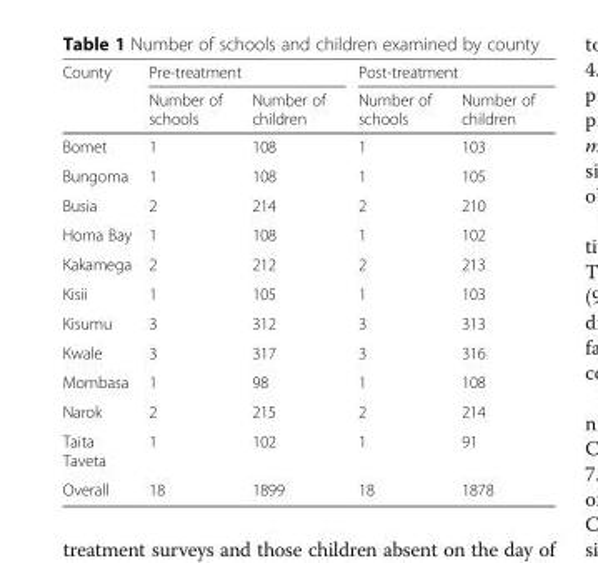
<table><thead><tr><td rowspan="2">County</td><td colspan="2">Pre-treatment</td><td colspan="2">Post-treatment</td></tr><tr><td>Number of schools</td><td>Number of children</td><td>Number of schools</td><td>Number of children</td></tr></thead><tbody><tr><td>Bomet</td><td>1</td><td>108</td><td>1</td><td>103</td></tr><tr><td>Bungoma</td><td>1</td><td>108</td><td>1</td><td>105</td></tr><tr><td>Busia</td><td>2</td><td>214</td><td>2</td><td>210</td></tr><tr><td>Homa Bay</td><td>1</td><td>108</td><td>1</td><td>102</td></tr><tr><td>Kakamega</td><td>2</td><td>212</td><td>2</td><td>213</td></tr><tr><td>Kisii</td><td>1</td><td>105</td><td>1</td><td>103</td></tr><tr><td>Kisumu</td><td>3</td><td>312</td><td>3</td><td>313</td></tr><tr><td>Kwale</td><td>3</td><td>317</td><td>3</td><td>316</td></tr><tr><td>Mombasa</td><td>1</td><td>98</td><td>1</td><td>108</td></tr><tr><td>Narok</td><td>2</td><td>215</td><td>2</td><td>214</td></tr><tr><td>Taita Taveta</td><td>1</td><td>102</td><td>1</td><td>91</td></tr><tr><td>Overall</td><td>18</td><td>1899</td><td>18</td><td>1878</td></tr></tbody></table>